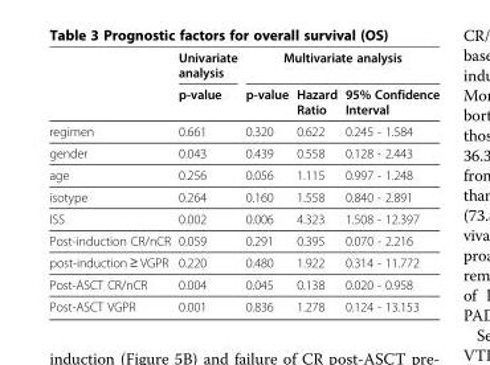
<table><thead><tr><td rowspan="2"></td><td rowspan="2">Univariate analysis p-value</td><td colspan="3">Multivariate analysis</td></tr><tr><td>p-value</td><td>Hazard Ratio</td><td>95% Confidence Interval</td></tr></thead><tbody><tr><td>regimen</td><td>0.661</td><td>0.320</td><td>0.622</td><td>0.245 - 1.584</td></tr><tr><td>gender</td><td>0.043</td><td>0.439</td><td>0.558</td><td>0.128 - 2.443</td></tr><tr><td>age</td><td>0.256</td><td>0.056</td><td>1.115</td><td>0.997 - 1.248</td></tr><tr><td>isotype</td><td>0.264</td><td>0.160</td><td>1.558</td><td>0.840 - 2.891</td></tr><tr><td>ISS</td><td>0.002</td><td>0.006</td><td>4.323</td><td>1.508 - 12.397</td></tr><tr><td>Post-induction CR/nCR</td><td>0.059</td><td>0.291</td><td>0.395</td><td>0.070 - 2.216</td></tr><tr><td>post-induction ≥ VGPR</td><td>0.220</td><td>0.480</td><td>1.922</td><td>0.314 - 11.772</td></tr><tr><td>Post-ASCT CR/nCR</td><td>0.004</td><td>0.045</td><td>0.138</td><td>0.020 - 0.958</td></tr><tr><td>Post-ASCT VGPR</td><td>0.001</td><td>0.836</td><td>1.278</td><td>0.124 - 13.153</td></tr></tbody></table>